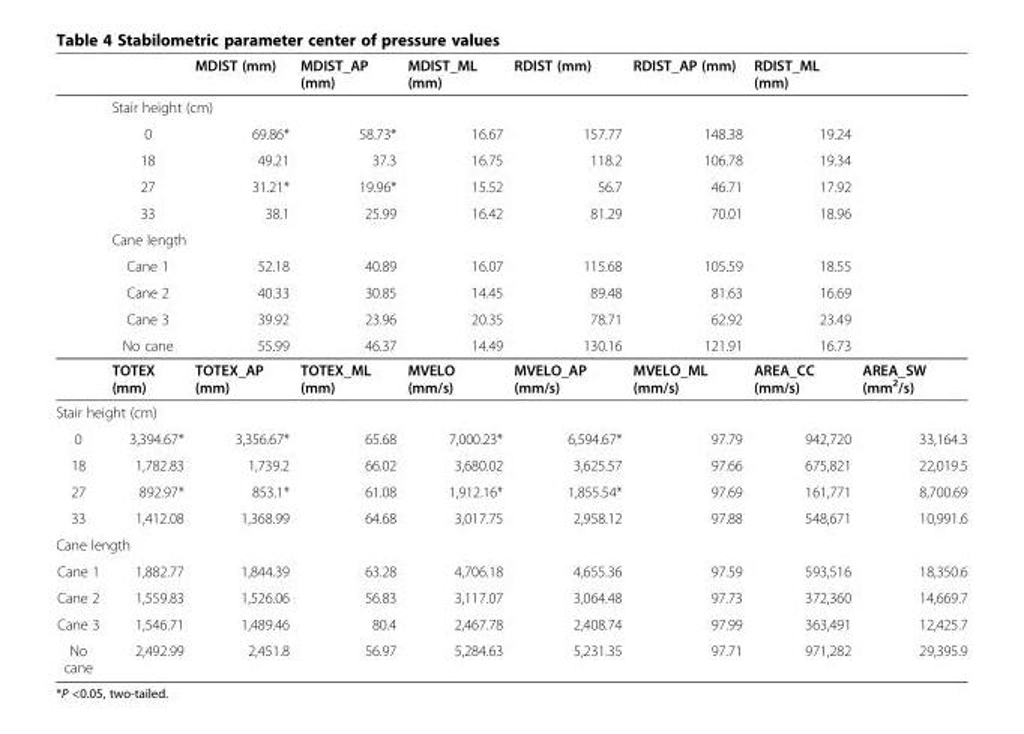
<table><thead><tr><td></td><td></td><td>MDIST (mm)</td><td>MDIST_AP (mm)</td><td>MDIST_ML (mm)</td><td>RDIST (mm)</td><td>RDIST_AP (mm)</td><td>RDIST_ML (mm)</td><td></td></tr></thead><tbody><tr><td></td><td colspan="7">Stair height (cm)</td><td rowspan="10"></td></tr><tr><td></td><td>0</td><td>69.86*</td><td>58.73*</td><td>16.67</td><td>157.77</td><td>148.38</td><td>19.24</td></tr><tr><td></td><td>18</td><td>49.21</td><td>37.3</td><td>16.75</td><td>118.2</td><td>106.78</td><td>19.34</td></tr><tr><td></td><td>27</td><td>31.21*</td><td>19.96*</td><td>15.52</td><td>56.7</td><td>46.71</td><td>17.92</td></tr><tr><td></td><td>33</td><td>38.1</td><td>25.99</td><td>16.42</td><td>81.29</td><td>70.01</td><td>18.96</td></tr><tr><td></td><td colspan="7">Cane length</td></tr><tr><td></td><td>Cane 1</td><td>52.18</td><td>40.89</td><td>16.07</td><td>115.68</td><td>105.59</td><td>18.55</td></tr><tr><td></td><td>Cane 2</td><td>40.33</td><td>30.85</td><td>14.45</td><td>89.48</td><td>81.63</td><td>16.69</td></tr><tr><td></td><td>Cane 3</td><td>39.92</td><td>23.96</td><td>20.35</td><td>78.71</td><td>62.92</td><td>23.49</td></tr><tr><td></td><td>No cane</td><td>55.99</td><td>46.37</td><td>14.49</td><td>130.16</td><td>121.91</td><td>16.73</td></tr><tr><td></td><td>TOTEX (mm)</td><td>TOTEX_AP (mm)</td><td>TOTEX_ML (mm)</td><td>MVELO (mm/s)</td><td>MVELO_AP (mm/s)</td><td>MVELO_ML (mm/s)</td><td>AREA_CC (mm/s)</td><td>AREA_SW (mm<sup>2</sup>/s)</td></tr><tr><td colspan="9">Stair height (cm)</td></tr><tr><td>0</td><td>3,394.67*</td><td>3,356.67*</td><td>65.68</td><td>7,000.23*</td><td>6,594.67*</td><td>97.79</td><td>942,720</td><td>33,164.3</td></tr><tr><td>18</td><td>1,782.83</td><td>1,739.2</td><td>66.02</td><td>3,680.02</td><td>3,625.57</td><td>97.66</td><td>675,821</td><td>22,019.5</td></tr><tr><td>27</td><td>892.97*</td><td>853.1*</td><td>61.08</td><td>1,912.16*</td><td>1,855.54*</td><td>97.69</td><td>161,771</td><td>8,700.69</td></tr><tr><td>33</td><td>1,412.08</td><td>1,368.99</td><td>64.68</td><td>3,017.75</td><td>2,958.12</td><td>97.88</td><td>548,671</td><td>10,991.6</td></tr><tr><td colspan="9">Cane length</td></tr><tr><td>Cane 1</td><td>1,882.77</td><td>1,844.39</td><td>63.28</td><td>4,706.18</td><td>4,655.36</td><td>97.59</td><td>593,516</td><td>18,350.6</td></tr><tr><td>Cane 2</td><td>1,559.83</td><td>1,526.06</td><td>56.83</td><td>3,117.07</td><td>3,064.48</td><td>97.73</td><td>372,360</td><td>14,669.7</td></tr><tr><td>Cane 3</td><td>1,546.71</td><td>1,489.46</td><td>80.4</td><td>2,467.78</td><td>2,408.74</td><td>97.99</td><td>363,491</td><td>12,425.7</td></tr><tr><td>No cane</td><td>2,492.99</td><td>2,451.8</td><td>56.97</td><td>5,284.63</td><td>5,231.35</td><td>97.71</td><td>971,282</td><td>29,395.9</td></tr></tbody></table>